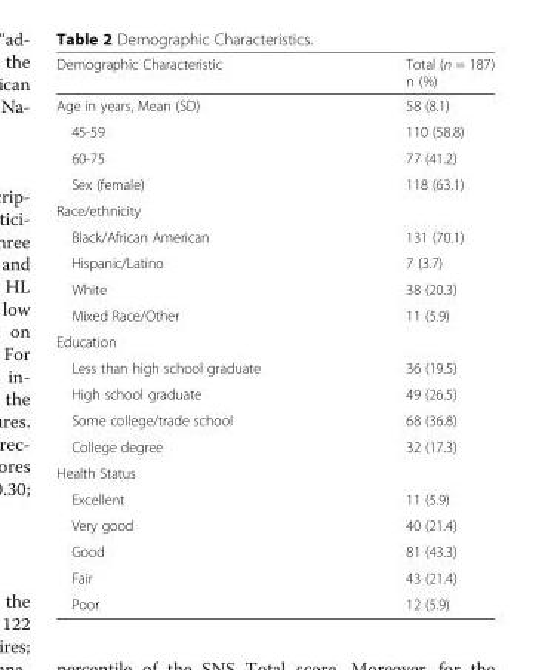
<table><thead><tr><td>Demographic Characteristic</td><td>Total (n = 187) n (%)</td></tr></thead><tbody><tr><td>Age in years, Mean (SD)</td><td>58 (8.1)</td></tr><tr><td>45-59</td><td>110 (58.8)</td></tr><tr><td>60-75</td><td>77 (41.2)</td></tr><tr><td>Sex (female)</td><td>118 (63.1)</td></tr><tr><td colspan="2">Race/ethnicity</td></tr><tr><td>Black/African American</td><td>131 (70.1)</td></tr><tr><td>Hispanic/Latino</td><td>7 (3.7)</td></tr><tr><td>White</td><td>38 (20.3)</td></tr><tr><td>Mixed Race/Other</td><td>11 (5.9)</td></tr><tr><td colspan="2">Education</td></tr><tr><td>Less than high school graduate</td><td>36 (19.5)</td></tr><tr><td>High school graduate</td><td>49 (26.5)</td></tr><tr><td>Some college/trade school</td><td>68 (36.8)</td></tr><tr><td>College degree</td><td>32 (17.3)</td></tr><tr><td colspan="2">Health Status</td></tr><tr><td>Excellent</td><td>11 (5.9)</td></tr><tr><td>Very good</td><td>40 (21.4)</td></tr><tr><td>Good</td><td>81 (43.3)</td></tr><tr><td>Fair</td><td>43 (21.4)</td></tr><tr><td>Poor</td><td>12 (5.9)</td></tr></tbody></table>